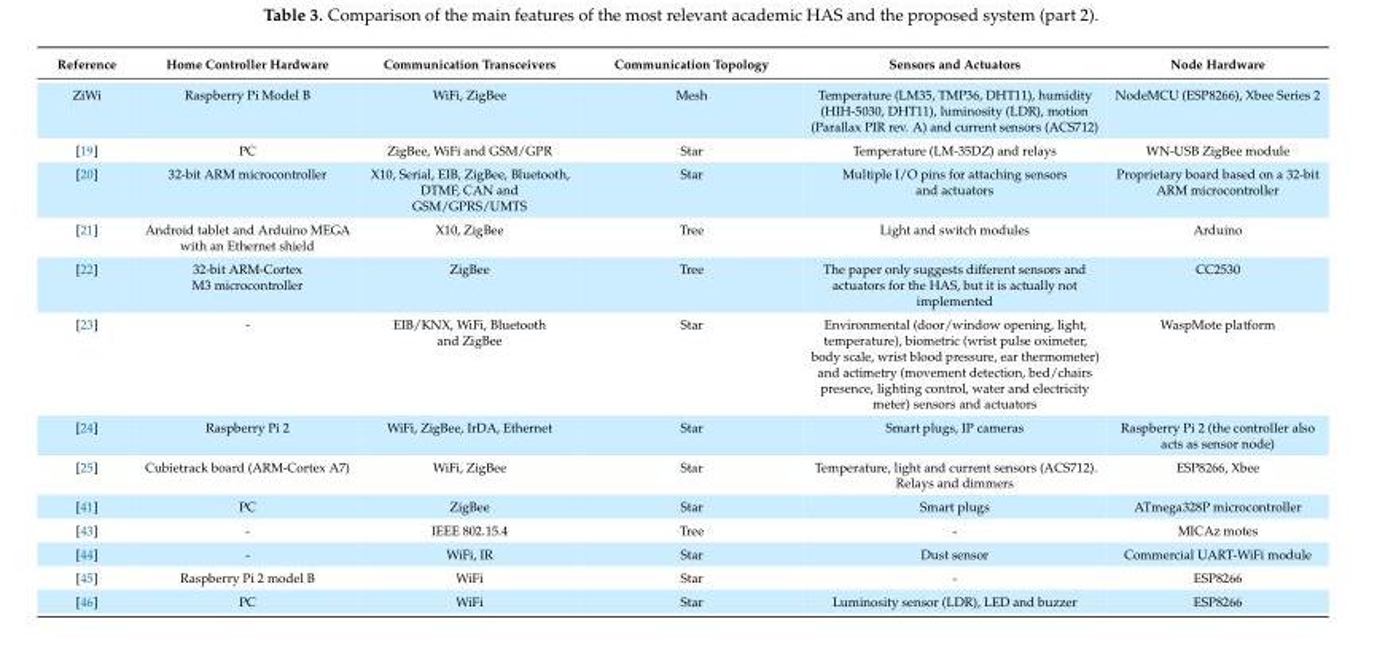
<table><thead><tr><td>Reference</td><td>Home Controller Hardware</td><td>Communication Transceivers</td><td>Communication Topology</td><td>Sensors and Actuators</td><td>Node Hardware</td></tr></thead><tbody><tr><td>ZiWi</td><td>Raspberry Pi Model B</td><td>WiFi, ZigBee</td><td>Mesh</td><td>Temperature (LM35, TMP36, DHT11), humidity (HIH-5030, DHT11), luminosity (LDR), motion (Parallax PIR rev. A) and current sensors (ACS712)</td><td>NodeMCU (ESP8266), Xbee Series 2</td></tr><tr><td>[19]</td><td>PC</td><td>ZigBee, WiFi and GSM/GPR</td><td>Star</td><td>Temperature (LM-35DZ) and relays</td><td>WN-USB ZigBee module</td></tr><tr><td>[20]</td><td>32-bit ARM microcontroller</td><td>X10, Serial, EIB, ZigBee, Bluetooth, DTMF, CAN and GSM/GPRS/UMTS</td><td>Star</td><td>Multiple I/O pins for attaching sensors and actuators</td><td>Proprietary board based on a 32-bit ARM microcontroller</td></tr><tr><td>[21]</td><td>Android tablet and Arduino MEGA with an Ethernet shield</td><td>X10, ZigBee</td><td>Tree</td><td>Light and switch modules</td><td>Arduino</td></tr><tr><td>[22]</td><td>32-bit ARM-Cortex M3 microcontroller</td><td>ZigBee</td><td>Tree</td><td>The paper only suggests different sensors and actuators for the HAS, but it is actually not implemented</td><td>CC2530</td></tr><tr><td>[23]</td><td>-</td><td>EIB/KNX, WiFi, Bluetooth and ZigBee</td><td>Star</td><td>Environmental (door/window opening, light, temperature), biometric (wrist pulse oximeter, body scale, wrist blood pressure, ear thermometer) and actimetry (movement detection, bed/chairs presence, lighting control, water and electricity meter) sensors and actuators</td><td>WaspMote platform</td></tr><tr><td>[24]</td><td>Raspberry Pi 2</td><td>WiFi, ZigBee, IrDA, Ethernet</td><td>Star</td><td>Smart plugs, IP cameras</td><td>Raspberry Pi 2 (the controller also acts as sensor node)</td></tr><tr><td>[25]</td><td>Cubietrack board (ARM-Cortex A7)</td><td>WiFi, ZigBee</td><td>Star</td><td>Temperature, light and current sensors (ACS712). Relays and dimmers</td><td>ESP8266, Xbee</td></tr><tr><td>[41]</td><td>PC</td><td>ZigBee</td><td>Star</td><td>Smart plugs</td><td>ATmega328P microcontroller</td></tr><tr><td>[43]</td><td>-</td><td>IEEE 802.15.4</td><td>Tree</td><td>-</td><td>MICAz motes</td></tr><tr><td>[44]</td><td>-</td><td>WiFi, IR</td><td>Star</td><td>Dust sensor</td><td>Commercial UART-WiFi module</td></tr><tr><td>[45]</td><td>Raspberry Pi 2 model B</td><td>WiFi</td><td>Star</td><td>-</td><td>ESP8266</td></tr><tr><td>[46]</td><td>PC</td><td>WiFi</td><td>Star</td><td>Luminosity sensor (LDR), LED and buzzer</td><td>ESP8266</td></tr></tbody></table>